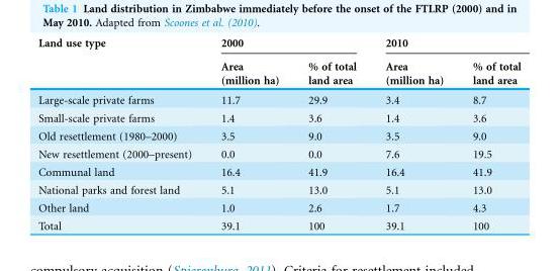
<table><thead><tr><td rowspan="2">Land use type</td><td colspan="2">2000</td><td colspan="2">2010</td></tr><tr><td>Area (million ha)</td><td>% of total land area</td><td>Area (million ha)</td><td>% of total land area</td></tr></thead><tbody><tr><td>Large-scale private farms</td><td>11.7</td><td>29.9</td><td>3.4</td><td>8.7</td></tr><tr><td>Small-scale private farms</td><td>1.4</td><td>3.6</td><td>1.4</td><td>3.6</td></tr><tr><td>Old resettlement (1980–2000)</td><td>3.5</td><td>9.0</td><td>3.5</td><td>9.0</td></tr><tr><td>New resettlement (2000–present)</td><td>0.0</td><td>0.0</td><td>7.6</td><td>19.5</td></tr><tr><td>Communal land</td><td>16.4</td><td>41.9</td><td>16.4</td><td>41.9</td></tr><tr><td>National parks and forest land</td><td>5.1</td><td>13.0</td><td>5.1</td><td>13.0</td></tr><tr><td>Other land</td><td>1.0</td><td>2.6</td><td>1.7</td><td>4.3</td></tr><tr><td>Total</td><td>39.1</td><td>100</td><td>39.1</td><td>100</td></tr></tbody></table>